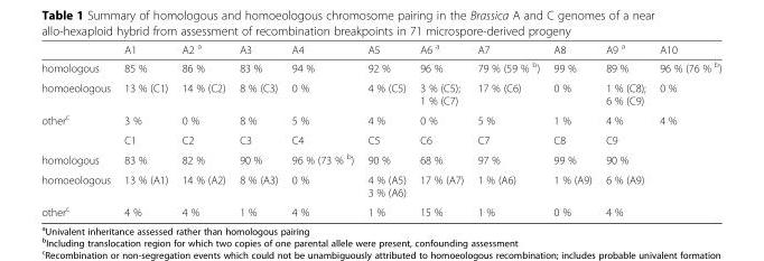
<table><thead><tr><td></td><td>A1</td><td>A2 <sup>a</sup></td><td>A3</td><td>A4</td><td>A5</td><td>A6 <sup>a</sup></td><td>A7</td><td>A8</td><td>A9 <sup>a</sup></td><td>A10</td></tr></thead><tbody><tr><td>homologous</td><td>85 %</td><td>86 %</td><td>83 %</td><td>94 %</td><td>92 %</td><td>96 %</td><td>79 % (59 % <sup>b</sup>)</td><td>99 %</td><td>89 %</td><td>96 % (76 % <sup>b</sup>)</td></tr><tr><td>homoeologous</td><td>13 % (C1)</td><td>14 % (C2)</td><td>8 % (C3)</td><td>0 %</td><td>4 % (C5)</td><td>3 % (C5); 1 % (C7)</td><td>17 % (C6)</td><td>0 %</td><td>1 % (C8); 6 % (C9)</td><td>0 %</td></tr><tr><td rowspan="2">other<sup>c</sup></td><td>3 %</td><td>0 %</td><td>8 %</td><td>5 %</td><td>4 %</td><td>0 %</td><td>5 %</td><td>1 %</td><td>4 %</td><td>4 %</td></tr><tr><td>C1</td><td>C2</td><td>C3</td><td>C4</td><td>C5</td><td>C6</td><td>C7</td><td>C8</td><td>C9</td><td></td></tr><tr><td>homologous</td><td>83 %</td><td>82 %</td><td>90 %</td><td>96 % (73 % <sup>b</sup>)</td><td>90 %</td><td>68 %</td><td>97 %</td><td>99 %</td><td>90 %</td><td></td></tr><tr><td>homoeologous</td><td>13 % (A1)</td><td>14 % (A2)</td><td>8 % (A3)</td><td>0 %</td><td>4 % (A5) 3 % (A6)</td><td>17 % (A7)</td><td>1 % (A6)</td><td>1 % (A9)</td><td>6 % (A9)</td><td></td></tr><tr><td>other<sup>c</sup></td><td>4 %</td><td>4 %</td><td>1 %</td><td>4 %</td><td>1 %</td><td>15 %</td><td>1 %</td><td>0 %</td><td>4 %</td><td></td></tr></tbody></table>